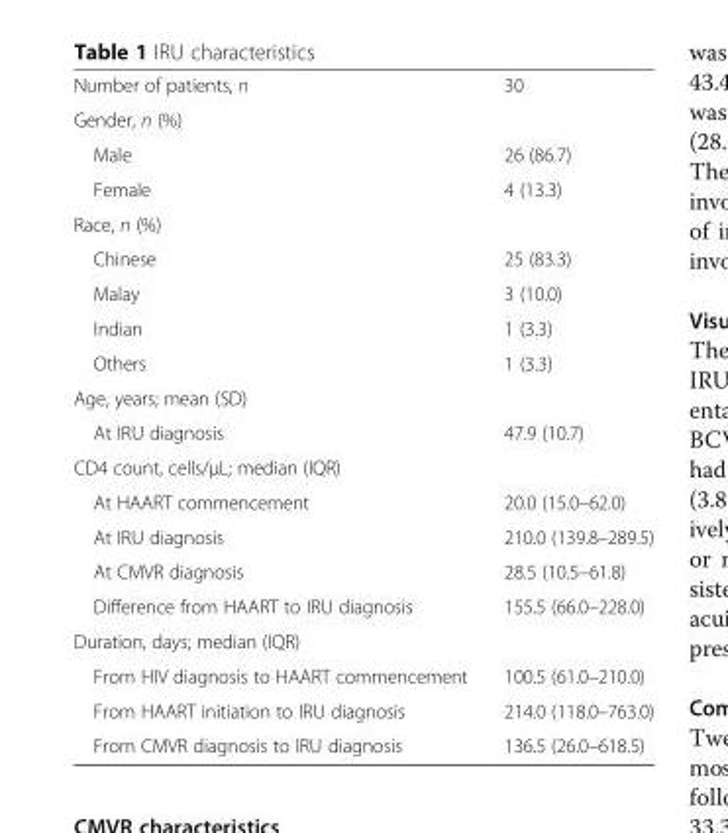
<table><tbody><tr><td>Number of patients, n</td><td>30</td></tr><tr><td colspan="2">Gender, n (%)</td></tr><tr><td>Male</td><td>26 (86.7)</td></tr><tr><td>Female</td><td>4 (13.3)</td></tr><tr><td colspan="2">Race, n (%)</td></tr><tr><td>Chinese</td><td>25 (83.3)</td></tr><tr><td>Malay</td><td>3 (10.0)</td></tr><tr><td>Indian</td><td>1 (3.3)</td></tr><tr><td>Others</td><td>1 (3.3)</td></tr><tr><td colspan="2">Age, years; mean (SD)</td></tr><tr><td>At IRU diagnosis</td><td>47.9 (10.7)</td></tr><tr><td colspan="2">CD4 count, cells/μL; median (IQR)</td></tr><tr><td>At HAART commencement</td><td>20.0 (15.0–62.0)</td></tr><tr><td>At IRU diagnosis</td><td>210.0 (139.8–289.5)</td></tr><tr><td>At CMVR diagnosis</td><td>28.5 (10.5–61.8)</td></tr><tr><td>Difference from HAART to IRU diagnosis</td><td>155.5 (66.0–228.0)</td></tr><tr><td colspan="2">Duration, days; median (IQR)</td></tr><tr><td>From HIV diagnosis to HAART commencement</td><td>100.5 (61.0–210.0)</td></tr><tr><td>From HAART initiation to IRU diagnosis</td><td>214.0 (118.0–763.0)</td></tr><tr><td>From CMVR diagnosis to IRU diagnosis</td><td>136.5 (26.0–618.5)</td></tr></tbody></table>